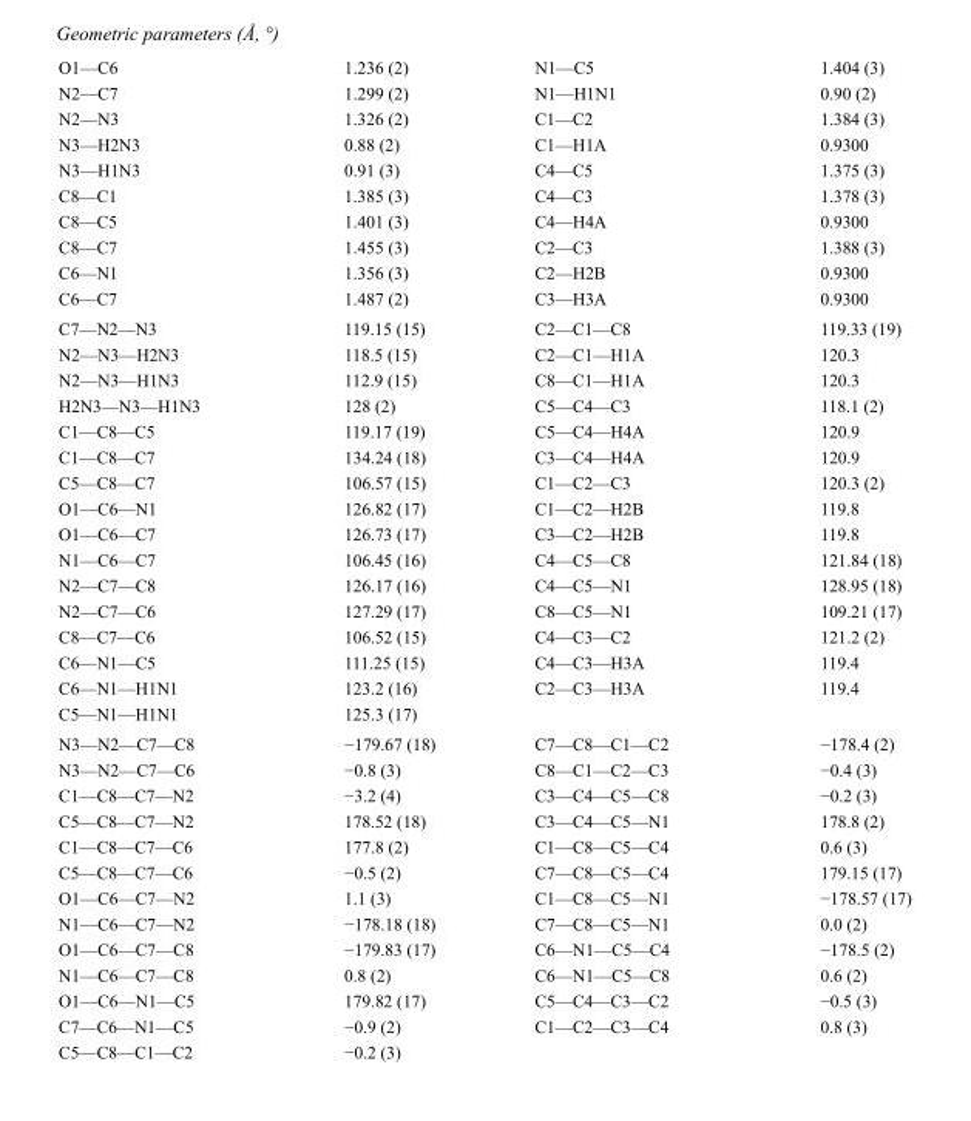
<table><tbody><tr><td>O1—C6</td><td>1.236 (2)</td><td>N1—C5</td><td>1.404 (3)</td></tr><tr><td>N2—C7</td><td>1.299 (2)</td><td>N1—H1N1</td><td>0.90 (2)</td></tr><tr><td>N2—N3</td><td>1.326 (2)</td><td>C1—C2</td><td>1.384 (3)</td></tr><tr><td>N3—H2N3</td><td>0.88 (2)</td><td>C1—H1A</td><td>0.9300</td></tr><tr><td>N3—H1N3</td><td>0.91 (3)</td><td>C4—C5</td><td>1.375 (3)</td></tr><tr><td>C8—C1</td><td>1.385 (3)</td><td>C4—C3</td><td>1.378 (3)</td></tr><tr><td>C8—C5</td><td>1.401 (3)</td><td>C4—H4A</td><td>0.9300</td></tr><tr><td>C8—C7</td><td>1.455 (3)</td><td>C2—C3</td><td>1.388 (3)</td></tr><tr><td>C6—N1</td><td>1.356 (3)</td><td>C2—H2B</td><td>0.9300</td></tr><tr><td>C6—C7</td><td>1.487 (2)</td><td>C3—H3A</td><td>0.9300</td></tr><tr><td>C7—N2—N3</td><td>119.15 (15)</td><td>C2—C1—C8</td><td>119.33 (19)</td></tr><tr><td>N2—N3—H2N3</td><td>118.5 (15)</td><td>C2—C1—H1A</td><td>120.3</td></tr><tr><td>N2—N3—H1N3</td><td>112.9 (15)</td><td>C8—C1—H1A</td><td>120.3</td></tr><tr><td>H2N3—N3—H1N3</td><td>128 (2)</td><td>C5—C4—C3</td><td>118.1 (2)</td></tr><tr><td>C1—C8—C5</td><td>119.17 (19)</td><td>C5—C4—H4A</td><td>120.9</td></tr><tr><td>C1—C8—C7</td><td>134.24 (18)</td><td>C3—C4—H4A</td><td>120.9</td></tr><tr><td>C5—C8—C7</td><td>106.57 (15)</td><td>C1—C2—C3</td><td>120.3 (2)</td></tr><tr><td>O1—C6—N1</td><td>126.82 (17)</td><td>C1—C2—H2B</td><td>119.8</td></tr><tr><td>O1—C6—C7</td><td>126.73 (17)</td><td>C3—C2—H2B</td><td>119.8</td></tr><tr><td>N1—C6—C7</td><td>106.45 (16)</td><td>C4—C5—C8</td><td>121.84 (18)</td></tr><tr><td>N2—C7—C8</td><td>126.17 (16)</td><td>C4—C5—N1</td><td>128.95 (18)</td></tr><tr><td>N2—C7—C6</td><td>127.29 (17)</td><td>C8—C5—N1</td><td>109.21 (17)</td></tr><tr><td>C8—C7—C6</td><td>106.52 (15)</td><td>C4—C3—C2</td><td>121.2 (2)</td></tr><tr><td>C6—N1—C5</td><td>111.25 (15)</td><td>C4—C3—H3A</td><td>119.4</td></tr><tr><td>C6—N1—H1N1</td><td>123.2 (16)</td><td>C2—C3—H3A</td><td>119.4</td></tr><tr><td>C5—N1—H1N1</td><td>125.3 (17)</td><td></td><td></td></tr><tr><td>N3—N2—C7—C8</td><td>−179.67 (18)</td><td>C7—C8—C1—C2</td><td>−178.4 (2)</td></tr><tr><td>N3—N2—C7—C6</td><td>−0.8 (3)</td><td>C8—C1—C2—C3</td><td>−0.4 (3)</td></tr><tr><td>C1—C8—C7—N2</td><td>−3.2 (4)</td><td>C3—C4—C5—C8</td><td>−0.2 (3)</td></tr><tr><td>C5—C8—C7—N2</td><td>178.52 (18)</td><td>C3—C4—C5—N1</td><td>178.8 (2)</td></tr><tr><td>C1—C8—C7—C6</td><td>177.8 (2)</td><td>C1—C8—C5—C4</td><td>0.6 (3)</td></tr><tr><td>C5—C8—C7—C6</td><td>−0.5 (2)</td><td>C7—C8—C5—C4</td><td>179.15 (17)</td></tr><tr><td>O1—C6—C7—N2</td><td>1.1 (3)</td><td>C1—C8—C5—N1</td><td>−178.57 (17)</td></tr><tr><td>N1—C6—C7—N2</td><td>−178.18 (18)</td><td>C7—C8—C5—N1</td><td>0.0 (2)</td></tr><tr><td>O1—C6—C7—C8</td><td>−179.83 (17)</td><td>C6—N1—C5—C4</td><td>−178.5 (2)</td></tr><tr><td>N1—C6—C7—C8</td><td>0.8 (2)</td><td>C6—N1—C5—C8</td><td>0.6 (2)</td></tr><tr><td>O1—C6—N1—C5</td><td>179.82 (17)</td><td>C5—C4—C3—C2</td><td>−0.5 (3)</td></tr><tr><td>C7—C6—N1—C5</td><td>−0.9 (2)</td><td>C1—C2—C3—C4</td><td>0.8 (3)</td></tr><tr><td>C5—C8—C1—C2</td><td>−0.2 (3)</td><td></td><td></td></tr></tbody></table>